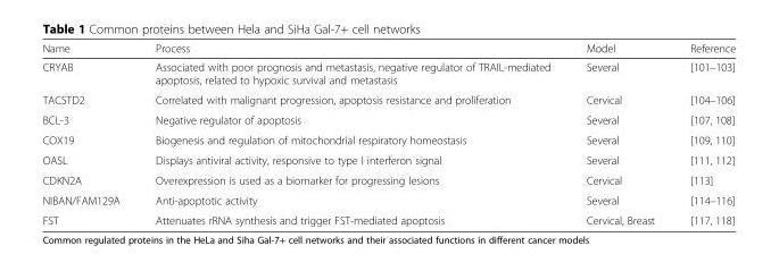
<table><thead><tr><td>Name</td><td>Process</td><td>Model</td><td>Reference</td></tr></thead><tbody><tr><td>CRYAB</td><td>Associated with poor prognosis and metastasis, negative regulator of TRAIL-mediated apoptosis, related to hypoxic survival and metastasis</td><td>Several</td><td>[101–103]</td></tr><tr><td>TACSTD2</td><td>Correlated with malignant progression, apoptosis resistance and proliferation</td><td>Cervical</td><td>[104–106]</td></tr><tr><td>BCL-3</td><td>Negative regulator of apoptosis</td><td>Several</td><td>[107, 108]</td></tr><tr><td>COX19</td><td>Biogenesis and regulation of mitochondrial respiratory homeostasis</td><td>Several</td><td>[109, 110]</td></tr><tr><td>OASL</td><td>Displays antiviral activity, responsive to type I interferon signal</td><td>Several</td><td>[111, 112]</td></tr><tr><td>CDKN2A</td><td>Overexpression is used as a biomarker for progressing lesions</td><td>Cervical</td><td>[113]</td></tr><tr><td>NIBAN/FAM129A</td><td>Anti-apoptotic activity</td><td>Several</td><td>[114–116]</td></tr><tr><td>FST</td><td>Attenuates rRNA synthesis and trigger FST-mediated apoptosis</td><td>Cervical, Breast</td><td>[117, 118]</td></tr></tbody></table>